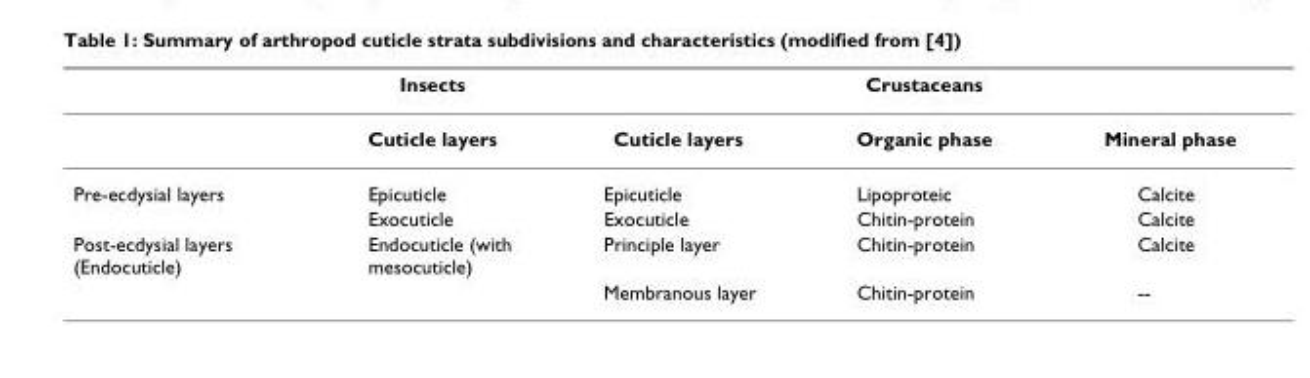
<table><thead><tr><td rowspan="2"></td><td rowspan="2">Insects Cuticle layers</td><td colspan="3">Crustaceans</td></tr><tr><td>Cuticle layers</td><td>Organic phase</td><td>Mineral phase</td></tr></thead><tbody><tr><td rowspan="2">Pre-ecdysial layers</td><td>Epicuticle</td><td>Epicuticle</td><td>Lipoproteic</td><td>Calcite</td></tr><tr><td>Exocuticle</td><td>Exocuticle</td><td>Chitin-protein</td><td>Calcite</td></tr><tr><td rowspan="2">Post-ecdysial layers (Endocuticle)</td><td>Endocuticle (with mesocuticle)</td><td>Principle layer</td><td>Chitin-protein</td><td>Calcite</td></tr><tr><td></td><td>Membranous layer</td><td>Chitin-protein</td><td>--</td></tr></tbody></table>